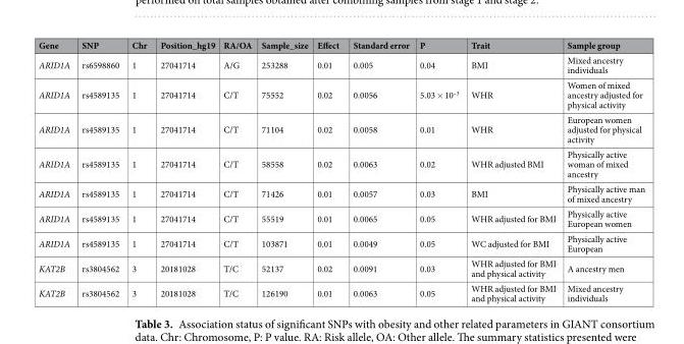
<table><thead><tr><td>Gene</td><td>SNP</td><td>Chr</td><td>Position_hg19</td><td>RA/OA</td><td>Sample_size</td><td>Effect</td><td>Standard error</td><td>P</td><td>Trait</td><td>Sample group</td></tr></thead><tbody><tr><td>ARID1A</td><td>rs6598860</td><td>1</td><td>27041714</td><td>A/G</td><td>253288</td><td>0.01</td><td>0.005</td><td>0.04</td><td>BMI</td><td>Mixed ancestry individuals</td></tr><tr><td>ARID1A</td><td>rs4589135</td><td>1</td><td>27041714</td><td>C/T</td><td>75552</td><td>0.02</td><td>0.0056</td><td>5.03 × 10<sup>–3</sup></td><td>WHR</td><td>Women of mixed ancestry adjusted for physical activity</td></tr><tr><td>ARID1A</td><td>rs4589135</td><td>1</td><td>27041714</td><td>C/T</td><td>71104</td><td>0.02</td><td>0.0058</td><td>0.01</td><td>WHR</td><td>European women adjusted for physical activity</td></tr><tr><td>ARID1A</td><td>rs4589135</td><td>1</td><td>27041714</td><td>C/T</td><td>58558</td><td>0.02</td><td>0.0063</td><td>0.02</td><td>WHR adjusted BMI</td><td>Physically active woman of mixed ancestry</td></tr><tr><td>ARID1A</td><td>rs4589135</td><td>1</td><td>27041714</td><td>C/T</td><td>71426</td><td>0.01</td><td>0.0057</td><td>0.03</td><td>BMI</td><td>Physically active man of mixed ancestry</td></tr><tr><td>ARID1A</td><td>rs4589135</td><td>1</td><td>27041714</td><td>C/T</td><td>55519</td><td>0.01</td><td>0.0065</td><td>0.05</td><td>WHR adjusted for BMI</td><td>Physically active European women</td></tr><tr><td>ARID1A</td><td>rs4589135</td><td>1</td><td>27041714</td><td>C/T</td><td>103871</td><td>0.01</td><td>0.0049</td><td>0.05</td><td>WC adjusted for BMI</td><td>Physically active European</td></tr><tr><td>KAT2B</td><td>rs3804562</td><td>3</td><td>20181028</td><td>T/C</td><td>52137</td><td>0.02</td><td>0.0091</td><td>0.03</td><td>WHR adjusted for BMI and physical activity</td><td>A ancestry men</td></tr><tr><td>KAT2B</td><td>rs3804562</td><td>3</td><td>20181028</td><td>T/C</td><td>126190</td><td>0.01</td><td>0.0063</td><td>0.05</td><td>WHR adjusted for BMI and physical activity</td><td>Mixed ancestry individuals</td></tr></tbody></table>